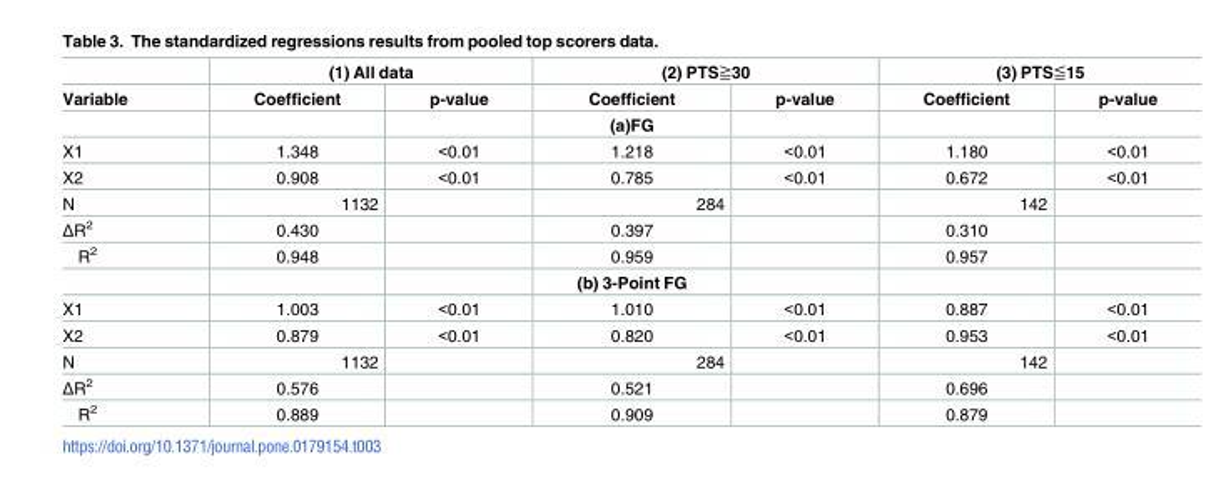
<table><thead><tr><td rowspan="2">Variable</td><td colspan="2">(1) All data</td><td colspan="2">(2) PTS≧30</td><td colspan="2">(3) PTS≦15</td></tr><tr><td>Coefficient</td><td>p-value</td><td>Coefficient</td><td>p-value</td><td>Coefficient</td><td>p-value</td></tr></thead><tbody><tr><td></td><td></td><td></td><td>(a)FG</td><td></td><td></td><td></td></tr><tr><td>X1</td><td>1.348</td><td>&lt;0.01</td><td>1.218</td><td>&lt;0.01</td><td>1.180</td><td>&lt;0.01</td></tr><tr><td>X2</td><td>0.908</td><td>&lt;0.01</td><td>0.785</td><td>&lt;0.01</td><td>0.672</td><td>&lt;0.01</td></tr><tr><td>N</td><td>1132</td><td></td><td>284</td><td></td><td>142</td><td></td></tr><tr><td>ΔR<sup>2</sup></td><td>0.430</td><td></td><td>0.397</td><td></td><td>0.310</td><td></td></tr><tr><td rowspan="2">R<sup>2</sup></td><td>0.948</td><td></td><td>0.959</td><td></td><td>0.957</td><td></td></tr><tr><td></td><td></td><td>(b) 3-Point FG</td><td></td><td></td><td></td></tr><tr><td>X1</td><td>1.003</td><td>&lt;0.01</td><td>1.010</td><td>&lt;0.01</td><td>0.887</td><td>&lt;0.01</td></tr><tr><td>X2</td><td>0.879</td><td>&lt;0.01</td><td>0.820</td><td>&lt;0.01</td><td>0.953</td><td>&lt;0.01</td></tr><tr><td>N</td><td>1132</td><td></td><td>284</td><td></td><td>142</td><td></td></tr><tr><td>ΔR<sup>2</sup></td><td>0.576</td><td></td><td>0.521</td><td></td><td>0.696</td><td></td></tr><tr><td>R<sup>2</sup></td><td>0.889</td><td></td><td>0.909</td><td></td><td>0.879</td><td></td></tr></tbody></table>